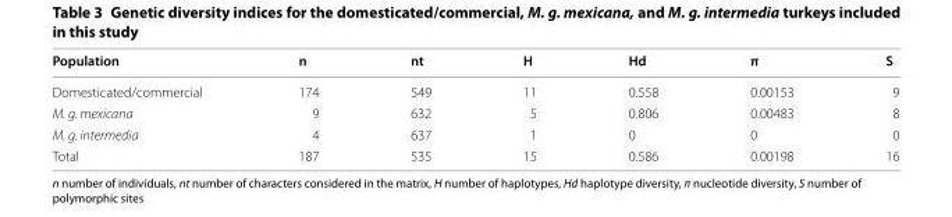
<table><thead><tr><td>Population</td><td>n</td><td>nt</td><td>H</td><td>Hd</td><td>π</td><td>S</td></tr></thead><tbody><tr><td>Domesticated/commercial</td><td>174</td><td>549</td><td>11</td><td>0.558</td><td>0.00153</td><td>9</td></tr><tr><td>M. g. mexicana</td><td>9</td><td>632</td><td>5</td><td>0.806</td><td>0.00483</td><td>8</td></tr><tr><td>M. g. intermedia</td><td>4</td><td>637</td><td>1</td><td>0</td><td>0</td><td>0</td></tr><tr><td>Total</td><td>187</td><td>535</td><td>15</td><td>0.586</td><td>0.00198</td><td>16</td></tr></tbody></table>